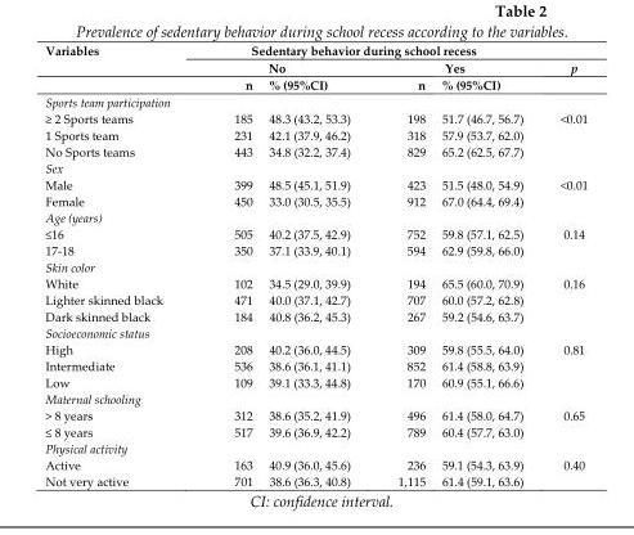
<table><thead><tr><td rowspan="3">Variables</td><td colspan="5">Sedentary behavior during school recess</td></tr><tr><td colspan="2">No</td><td colspan="2">Yes</td><td rowspan="2">p</td></tr><tr><td>n</td><td>% (95%CI)</td><td>n</td><td>% (95%CI)</td></tr></thead><tbody><tr><td colspan="6">Sports team participation</td></tr><tr><td>≥ 2 Sports teams</td><td>185</td><td>48.3 (43.2, 53.3)</td><td>198</td><td>51.7 (46.7, 56.7)</td><td>&lt;0.01</td></tr><tr><td>1 Sports team</td><td>231</td><td>42.1 (37.9, 46.2)</td><td>318</td><td>57.9 (53.7, 62.0)</td><td></td></tr><tr><td>No Sports teams</td><td>443</td><td>34.8 (32.2, 37.4)</td><td>829</td><td>65.2 (62.5, 67.7)</td><td></td></tr><tr><td colspan="6">Sex</td></tr><tr><td>Male</td><td>399</td><td>48.5 (45.1, 51.9)</td><td>423</td><td>51.5 (48.0, 54.9)</td><td>&lt;0.01</td></tr><tr><td>Female</td><td>450</td><td>33.0 (30.5, 35.5)</td><td>912</td><td>67.0 (64.4, 69.4)</td><td></td></tr><tr><td colspan="6">Age (years)</td></tr><tr><td>≤16</td><td>505</td><td>40.2 (37.5, 42.9)</td><td>752</td><td>59.8 (57.1, 62.5)</td><td>0.14</td></tr><tr><td>17-18</td><td>350</td><td>37.1 (33.9, 40.1)</td><td>594</td><td>62.9 (59.8, 66.0)</td><td></td></tr><tr><td colspan="6">Skin color</td></tr><tr><td>White</td><td>102</td><td>34.5 (29.0, 39.9)</td><td>194</td><td>65.5 (60.0, 70.9)</td><td>0.16</td></tr><tr><td>Lighter skinned black</td><td>471</td><td>40.0 (37.1, 42.7)</td><td>707</td><td>60.0 (57.2, 62.8)</td><td></td></tr><tr><td>Dark skinned black</td><td>184</td><td>40.8 (36.2, 45.3)</td><td>267</td><td>59.2 (54.6, 63.7)</td><td></td></tr><tr><td colspan="6">Socioeconomic status</td></tr><tr><td>High</td><td>208</td><td>40.2 (36.0, 44.5)</td><td>309</td><td>59.8 (55.5, 64.0)</td><td>0.81</td></tr><tr><td>Intermediate</td><td>536</td><td>38.6 (36.1, 41.1)</td><td>852</td><td>61.4 (58.8, 63.9)</td><td></td></tr><tr><td>Low</td><td>109</td><td>39.1 (33.3, 44.8)</td><td>170</td><td>60.9 (55.1, 66.6)</td><td></td></tr><tr><td colspan="6">Maternal schooling</td></tr><tr><td>&gt; 8 years</td><td>312</td><td>38.6 (35.2, 41.9)</td><td>496</td><td>61.4 (58.0, 64.7)</td><td>0.65</td></tr><tr><td>≤ 8 years</td><td>517</td><td>39.6 (36.9, 42.2)</td><td>789</td><td>60.4 (57.7, 63.0)</td><td></td></tr><tr><td colspan="6">Physical activity</td></tr><tr><td>Active</td><td>163</td><td>40.9 (36.0, 45.6)</td><td>236</td><td>59.1 (54.3, 63.9)</td><td>0.40</td></tr><tr><td>Not very active</td><td>701</td><td>38.6 (36.3, 40.8)</td><td>1,115</td><td>61.4 (59.1, 63.6)</td><td></td></tr></tbody></table>